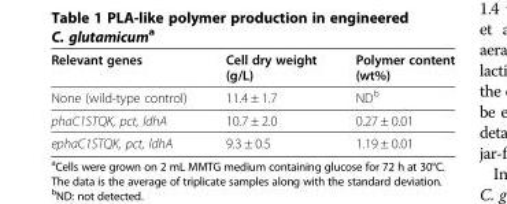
<table><thead><tr><td>Relevant genes</td><td>Cell dry weight (g/L)</td><td>Polymer content (wt%)</td></tr></thead><tbody><tr><td>None (wild-type control)</td><td>11.4 ± 1.7</td><td>ND<sup>b</sup></td></tr><tr><td>phaC1STQK, pct, ldhA</td><td>10.7 ± 2.0</td><td>0.27 ± 0.01</td></tr><tr><td>ephaC1STQK, pct, ldhA</td><td>9.3 ± 0.5</td><td>1.19 ± 0.01</td></tr></tbody></table>